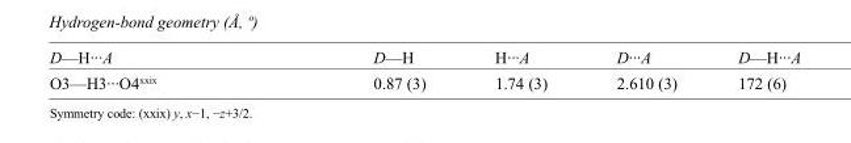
<table><tbody><tr><td>D—H···A</td><td>D—H</td><td>H···A</td><td>D···A</td><td>D—H···A</td></tr><tr><td>O3—H3···O4<sup>xxix</sup></td><td>0.87 (3)</td><td>1.74 (3)</td><td>2.610 (3)</td><td>172 (6)</td></tr></tbody></table>